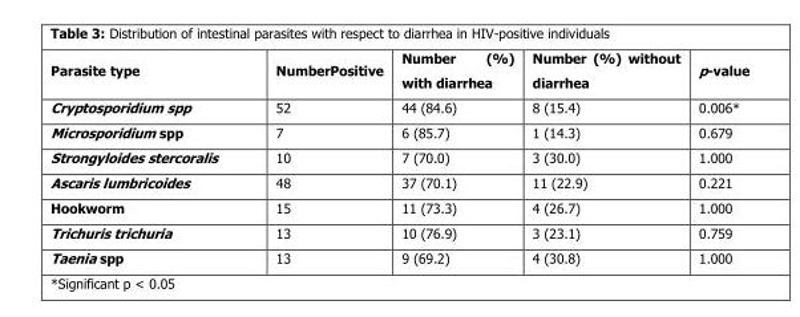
<table><thead><tr><td>Parasite type</td><td>NumberPositive</td><td>Number (%) with diarrhea</td><td>Number (%) without diarrhea</td><td>p-value</td></tr></thead><tbody><tr><td>Cryptosporidium spp</td><td>52</td><td>44 (84.6)</td><td>8 (15.4)</td><td>0.006*</td></tr><tr><td>Microsporidium spp</td><td>7</td><td>6 (85.7)</td><td>1 (14.3)</td><td>0.679</td></tr><tr><td>Strongyloides stercoralis</td><td>10</td><td>7 (70.0)</td><td>3 (30.0)</td><td>1.000</td></tr><tr><td>Ascaris lumbricoides</td><td>48</td><td>37 (70.1)</td><td>11 (22.9)</td><td>0.221</td></tr><tr><td>Hookworm</td><td>15</td><td>11 (73.3)</td><td>4 (26.7)</td><td>1.000</td></tr><tr><td>Trichuris trichuria</td><td>13</td><td>10 (76.9)</td><td>3 (23.1)</td><td>0.759</td></tr><tr><td>Taenia spp</td><td>13</td><td>9 (69.2)</td><td>4 (30.8)</td><td>1.000</td></tr></tbody></table>